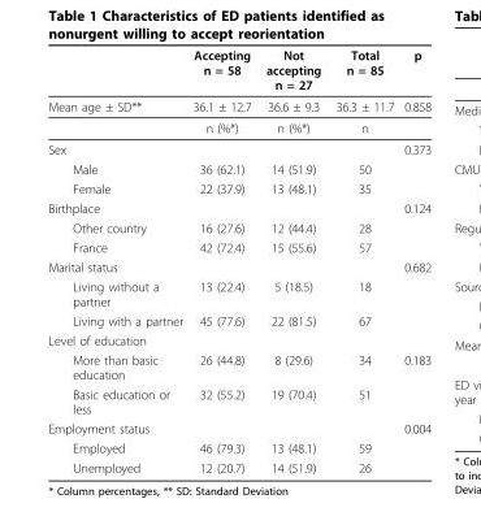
<table><thead><tr><td></td><td>Accepting n = 58</td><td>Not accepting n = 27</td><td>Total n = 85</td><td>p</td></tr></thead><tbody><tr><td rowspan="2">Mean age ± SD**</td><td>36.1 ± 12.7</td><td>36.6 ± 9.3</td><td>36.3 ± 11.7</td><td>0.858</td></tr><tr><td>n (%*)</td><td>n (%*)</td><td>n</td><td></td></tr><tr><td>Sex</td><td></td><td></td><td></td><td>0.373</td></tr><tr><td>Male</td><td>36 (62.1)</td><td>14 (51.9)</td><td>50</td><td></td></tr><tr><td>Female</td><td>22 (37.9)</td><td>13 (48.1)</td><td>35</td><td></td></tr><tr><td>Birthplace</td><td></td><td></td><td></td><td>0.124</td></tr><tr><td>Other country</td><td>16 (27.6)</td><td>12 (44.4)</td><td>28</td><td></td></tr><tr><td>France</td><td>42 (72.4)</td><td>15 (55.6)</td><td>57</td><td></td></tr><tr><td>Marital status</td><td></td><td></td><td></td><td>0.682</td></tr><tr><td>Living without a partner</td><td>13 (22.4)</td><td>5 (18.5)</td><td>18</td><td></td></tr><tr><td>Living with a partner</td><td>45 (77.6)</td><td>22 (81.5)</td><td>67</td><td></td></tr><tr><td colspan="5">Level of education</td></tr><tr><td>More than basic education</td><td>26 (44.8)</td><td>8 (29.6)</td><td>34</td><td>0.183</td></tr><tr><td>Basic education or less</td><td>32 (55.2)</td><td>19 (70.4)</td><td>51</td><td></td></tr><tr><td>Employment status</td><td></td><td></td><td></td><td>0.004</td></tr><tr><td>Employed</td><td>46 (79.3)</td><td>13 (48.1)</td><td>59</td><td></td></tr><tr><td>Unemployed</td><td>12 (20.7)</td><td>14 (51.9)</td><td>26</td><td></td></tr></tbody></table>